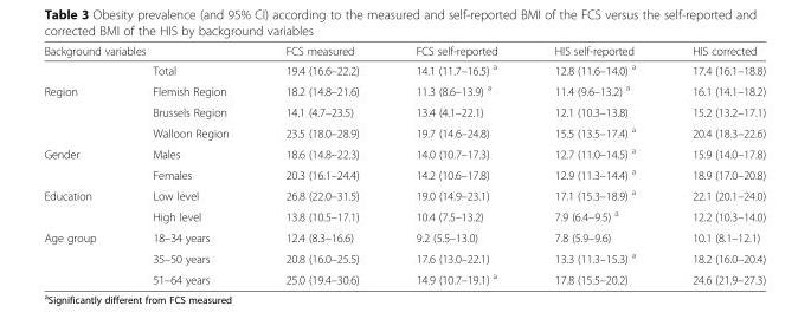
<table><thead><tr><td colspan="2">Background variables</td><td rowspan="2">FCS measured 19.4 (16.6–22.2)</td><td rowspan="2">FCS self-reported 14.1 (11.7–16.5) <sup>a</sup></td><td rowspan="2">HIS self-reported 12.8 (11.6–14.0) <sup>a</sup></td><td rowspan="2">HIS corrected 17.4 (16.1–18.8)</td></tr><tr><td></td><td>Total</td></tr></thead><tbody><tr><td rowspan="3">Region</td><td>Flemish Region</td><td>18.2 (14.8–21.6)</td><td>11.3 (8.6–13.9) <sup>a</sup></td><td>11.4 (9.6–13.2) <sup>a</sup></td><td>16.1 (14.1–18.2)</td></tr><tr><td>Brussels Region</td><td>14.1 (4.7–23.5)</td><td>13.4 (4.1–22.1)</td><td>12.1 (10.3–13.8)</td><td>15.2 (13.2–17.1)</td></tr><tr><td>Walloon Region</td><td>23.5 (18.0–28.9)</td><td>19.7 (14.6–24.8)</td><td>15.5 (13.5–17.4) <sup>a</sup></td><td>20.4 (18.3–22.6)</td></tr><tr><td rowspan="2">Gender</td><td>Males</td><td>18.6 (14.8–22.3)</td><td>14.0 (10.7–17.3)</td><td>12.7 (11.0–14.5) <sup>a</sup></td><td>15.9 (14.0–17.8)</td></tr><tr><td>Females</td><td>20.3 (16.1–24.4)</td><td>14.2 (10.6–17.8)</td><td>12.9 (11.3–14.4) <sup>a</sup></td><td>18.9 (17.0–20.8)</td></tr><tr><td rowspan="2">Education</td><td>Low level</td><td>26.8 (22.0–31.5)</td><td>19.0 (14.9–23.1)</td><td>17.1 (15.3–18.9) <sup>a</sup></td><td>22.1 (20.1–24.0)</td></tr><tr><td>High level</td><td>13.8 (10.5–17.1)</td><td>10.4 (7.5–13.2)</td><td>7.9 (6.4–9.5) <sup>a</sup></td><td>12.2 (10.3–14.0)</td></tr><tr><td rowspan="3">Age group</td><td>18–34 years</td><td>12.4 (8.3–16.6)</td><td>9.2 (5.5–13.0)</td><td>7.8 (5.9–9.6)</td><td>10.1 (8.1–12.1)</td></tr><tr><td>35–50 years</td><td>20.8 (16.0–25.5)</td><td>17.6 (13.0–22.1)</td><td>13.3 (11.3–15.3) <sup>a</sup></td><td>18.2 (16.0–20.4)</td></tr><tr><td>51–64 years</td><td>25.0 (19.4–30.6)</td><td>14.9 (10.7–19.1) <sup>a</sup></td><td>17.8 (15.5–20.2)</td><td>24.6 (21.9–27.3)</td></tr></tbody></table>